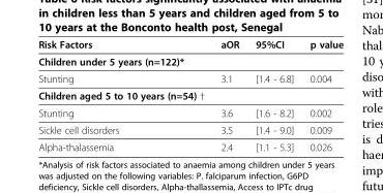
<table><thead><tr><td>Risk Factors</td><td>aOR</td><td>95%CI</td><td>p value</td></tr></thead><tbody><tr><td colspan="4">Children under 5 years (n=122)*</td></tr><tr><td>Stunting</td><td>3.1</td><td>[1.4 - 6.8]</td><td>0.004</td></tr><tr><td colspan="4">Children aged 5 to 10 years (n=54) †</td></tr><tr><td>Stunting</td><td>3.6</td><td>[1.6 - 8.2]</td><td>0.002</td></tr><tr><td>Sickle cell disorders</td><td>3.5</td><td>[1.4 - 9.0]</td><td>0.009</td></tr><tr><td>Alpha-thalassemia</td><td>2.4</td><td>[1.1 - 5.3]</td><td>0.026</td></tr></tbody></table>